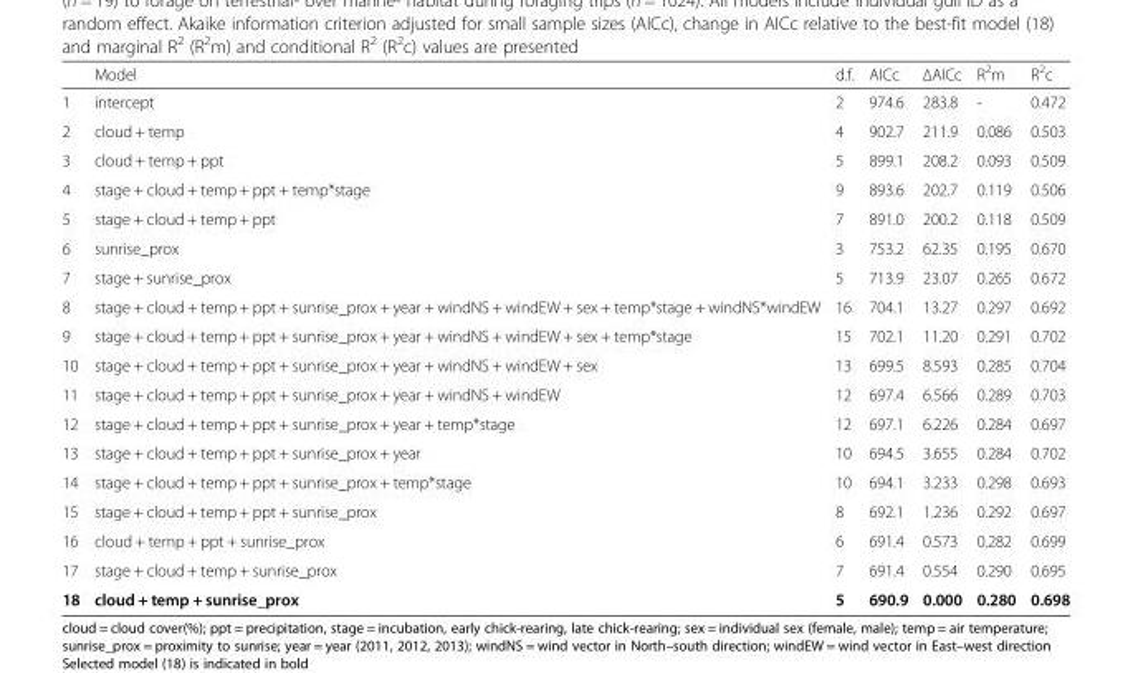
<table><thead><tr><td></td><td>Model</td><td>d.f.</td><td>AICc</td><td>ΔAICc</td><td>R<sup>2</sup>m</td><td>R<sup>2</sup>c</td></tr></thead><tbody><tr><td>1</td><td>intercept</td><td>2</td><td>974.6</td><td>283.8</td><td>-</td><td>0.472</td></tr><tr><td>2</td><td>cloud + temp</td><td>4</td><td>902.7</td><td>211.9</td><td>0.086</td><td>0.503</td></tr><tr><td>3</td><td>cloud + temp + ppt</td><td>5</td><td>899.1</td><td>208.2</td><td>0.093</td><td>0.509</td></tr><tr><td>4</td><td>stage + cloud + temp + ppt + temp*stage</td><td>9</td><td>893.6</td><td>202.7</td><td>0.119</td><td>0.506</td></tr><tr><td>5</td><td>stage + cloud + temp + ppt</td><td>7</td><td>891.0</td><td>200.2</td><td>0.118</td><td>0.509</td></tr><tr><td>6</td><td>sunrise_prox</td><td>3</td><td>753.2</td><td>62.35</td><td>0.195</td><td>0.670</td></tr><tr><td>7</td><td>stage + sunrise_prox</td><td>5</td><td>713.9</td><td>23.07</td><td>0.265</td><td>0.672</td></tr><tr><td>8</td><td>stage + cloud + temp + ppt + sunrise_prox + year + windNS + windEW + sex + temp*stage + windNS*windEW</td><td>16</td><td>704.1</td><td>13.27</td><td>0.297</td><td>0.692</td></tr><tr><td>9</td><td>stage + cloud + temp + ppt + sunrise_prox + year + windNS + windEW + sex + temp*stage</td><td>15</td><td>702.1</td><td>11.20</td><td>0.291</td><td>0.702</td></tr><tr><td>10</td><td>stage + cloud + temp + ppt + sunrise_prox + year + windNS + windEW + sex</td><td>13</td><td>699.5</td><td>8.593</td><td>0.285</td><td>0.704</td></tr><tr><td>11</td><td>stage + cloud + temp + ppt + sunrise_prox + year + windNS + windEW</td><td>12</td><td>697.4</td><td>6.566</td><td>0.289</td><td>0.703</td></tr><tr><td>12</td><td>stage + cloud + temp + ppt + sunrise_prox + year + temp*stage</td><td>12</td><td>697.1</td><td>6.226</td><td>0.284</td><td>0.697</td></tr><tr><td>13</td><td>stage + cloud + temp + ppt + sunrise_prox + year</td><td>10</td><td>694.5</td><td>3.655</td><td>0.284</td><td>0.702</td></tr><tr><td>14</td><td>stage + cloud + temp + ppt + sunrise_prox + temp*stage</td><td>10</td><td>694.1</td><td>3.233</td><td>0.298</td><td>0.693</td></tr><tr><td>15</td><td>stage + cloud + temp + ppt + sunrise_prox</td><td>8</td><td>692.1</td><td>1.236</td><td>0.292</td><td>0.697</td></tr><tr><td>16</td><td>cloud + temp + ppt + sunrise_prox</td><td>6</td><td>691.4</td><td>0.573</td><td>0.282</td><td>0.699</td></tr><tr><td>17</td><td>stage + cloud + temp + sunrise_prox</td><td>7</td><td>691.4</td><td>0.554</td><td>0.290</td><td>0.695</td></tr><tr><td>18</td><td>cloud + temp + sunrise_prox</td><td>5</td><td>690.9</td><td>0.000</td><td>0.280</td><td>0.698</td></tr></tbody></table>